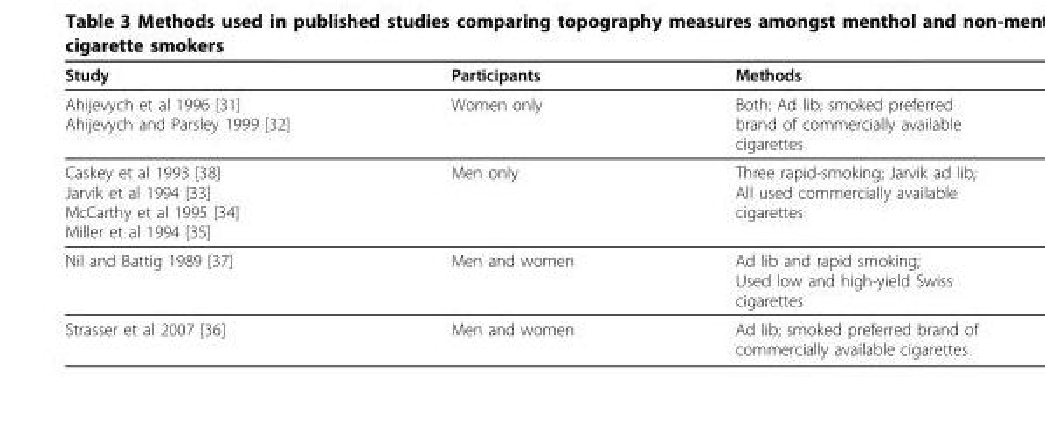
<table><thead><tr><td>Study</td><td>Participants</td><td>Methods</td></tr></thead><tbody><tr><td>Ahijevych et al 1996 [31] Ahijevych and Parsley 1999 [32]</td><td>Women only</td><td>Both: Ad lib; smoked preferred brand of commercially available cigarettes</td></tr><tr><td>Caskey et al 1993 [38] Jarvik et al 1994 [33] McCarthy et al 1995 [34] Miller et al 1994 [35]</td><td>Men only</td><td>Three rapid-smoking; Jarvik ad lib; All used commercially available cigarettes</td></tr><tr><td>Nil and Battig 1989 [37]</td><td>Men and women</td><td>Ad lib and rapid smoking; Used low and high-yield Swiss cigarettes</td></tr><tr><td>Strasser et al 2007 [36]</td><td>Men and women</td><td>Ad lib; smoked preferred brand of commercially available cigarettes</td></tr></tbody></table>